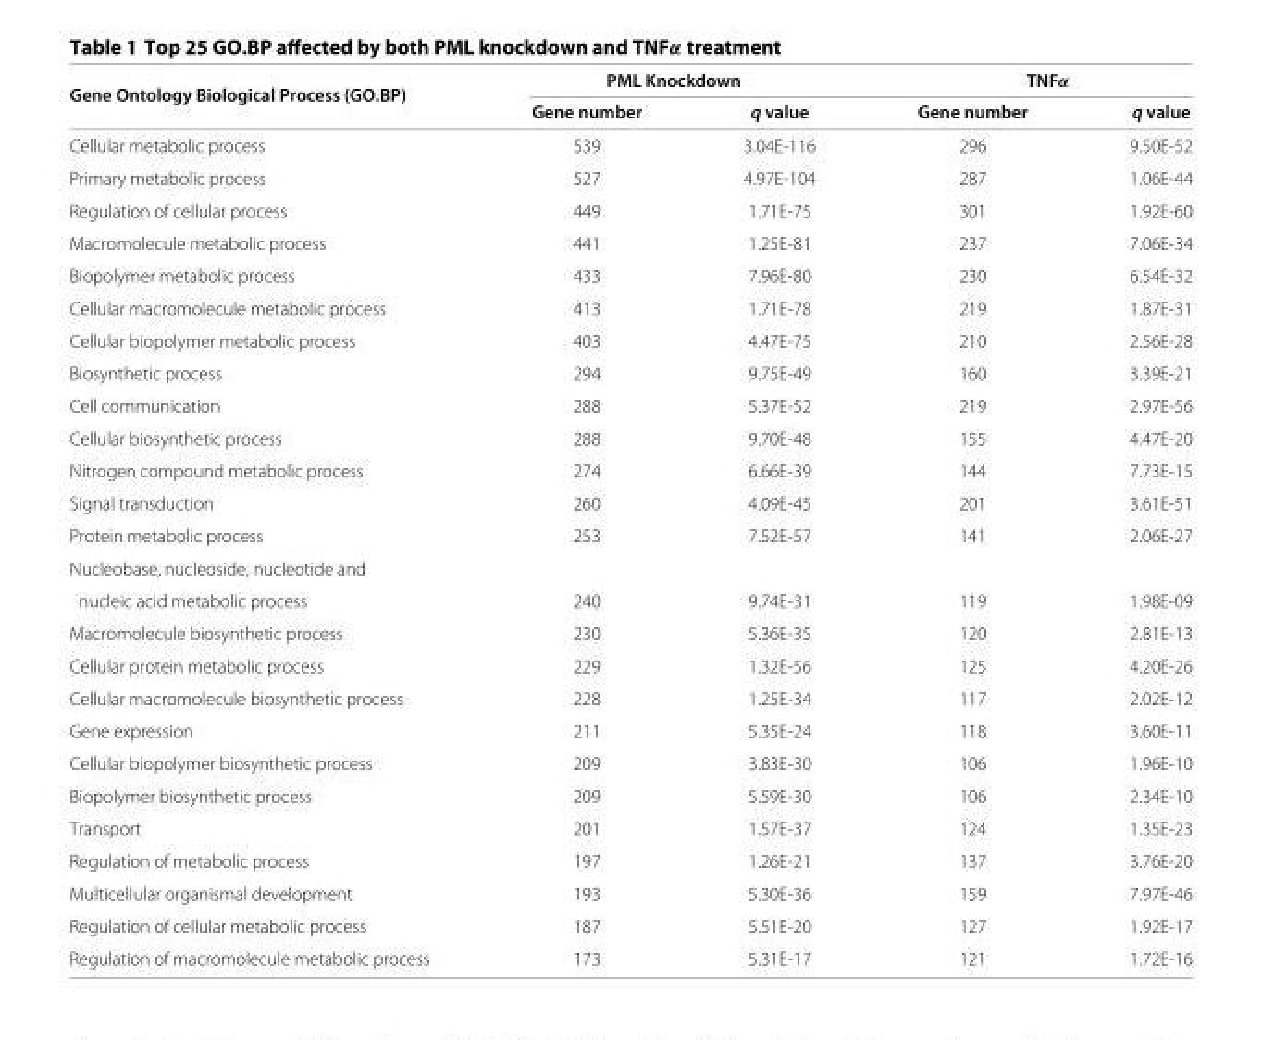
<table><thead><tr><td rowspan="2">Gene Ontology Biological Process (GO.BP)</td><td colspan="2">PML Knockdown</td><td colspan="2">TNFα</td></tr><tr><td>Gene number</td><td>q value</td><td>Gene number</td><td>q value</td></tr></thead><tbody><tr><td>Cellular metabolic process</td><td>539</td><td>3.04E-116</td><td>296</td><td>9.50E-52</td></tr><tr><td>Primary metabolic process</td><td>527</td><td>4.97E-104</td><td>287</td><td>1.06E-44</td></tr><tr><td>Regulation of cellular process</td><td>449</td><td>1.71E-75</td><td>301</td><td>1.92E-60</td></tr><tr><td>Macromolecule metabolic process</td><td>441</td><td>1.25E-81</td><td>237</td><td>7.06E-34</td></tr><tr><td>Biopolymer metabolic process</td><td>433</td><td>7.96E-80</td><td>230</td><td>6.54E-32</td></tr><tr><td>Cellular macromolecule metabolic process</td><td>413</td><td>1.71E-78</td><td>219</td><td>1.87E-31</td></tr><tr><td>Cellular biopolymer metabolic process</td><td>403</td><td>4.47E-75</td><td>210</td><td>2.56E-28</td></tr><tr><td>Biosynthetic process</td><td>294</td><td>9.75E-49</td><td>160</td><td>3.39E-21</td></tr><tr><td>Cell communication</td><td>288</td><td>5.37E-52</td><td>219</td><td>2.97E-56</td></tr><tr><td>Cellular biosynthetic process</td><td>288</td><td>9.70E-48</td><td>155</td><td>4.47E-20</td></tr><tr><td>Nitrogen compound metabolic process</td><td>274</td><td>6.66E-39</td><td>144</td><td>7.73E-15</td></tr><tr><td>Signal transduction</td><td>260</td><td>4.09E-45</td><td>201</td><td>3.61E-51</td></tr><tr><td>Protein metabolic process</td><td>253</td><td>7.52E-57</td><td>141</td><td>2.06E-27</td></tr><tr><td>Nucleobase, nucleoside, nucleotide and nucleic acid metabolic process</td><td>240</td><td>9.74E-31</td><td>119</td><td>1.98E-09</td></tr><tr><td>Macromolecule biosynthetic process</td><td>230</td><td>5.36E-35</td><td>120</td><td>2.81E-13</td></tr><tr><td>Cellular protein metabolic process</td><td>229</td><td>1.32E-56</td><td>125</td><td>4.20E-26</td></tr><tr><td>Cellular macromolecule biosynthetic process</td><td>228</td><td>1.25E-34</td><td>117</td><td>2.02E-12</td></tr><tr><td>Gene expression</td><td>211</td><td>5.35E-24</td><td>118</td><td>3.60E-11</td></tr><tr><td>Cellular biopolymer biosynthetic process</td><td>209</td><td>3.83E-30</td><td>106</td><td>1.96E-10</td></tr><tr><td>Biopolymer biosynthetic process</td><td>209</td><td>5.59E-30</td><td>106</td><td>2.34E-10</td></tr><tr><td>Transport</td><td>201</td><td>1.57E-37</td><td>124</td><td>1.35E-23</td></tr><tr><td>Regulation of metabolic process</td><td>197</td><td>1.26E-21</td><td>137</td><td>3.76E-20</td></tr><tr><td>Multicellular organismal development</td><td>193</td><td>5.30E-36</td><td>159</td><td>7.97E-46</td></tr><tr><td>Regulation of cellular metabolic process</td><td>187</td><td>5.51E-20</td><td>127</td><td>1.92E-17</td></tr><tr><td>Regulation of macromolecule metabolic process</td><td>173</td><td>5.31E-17</td><td>121</td><td>1.72E-16</td></tr></tbody></table>